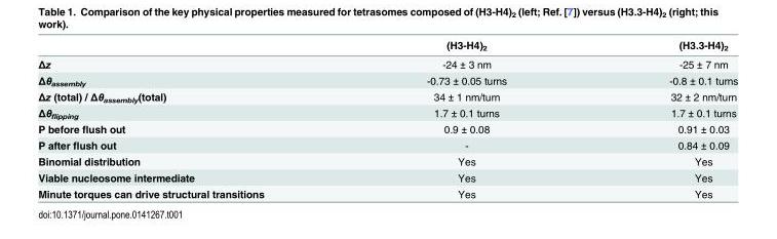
<table><thead><tr><td></td><td>(H3-H4)<sub>2</sub></td><td>(H3.3-H4)<sub>2</sub></td></tr></thead><tbody><tr><td>Δz</td><td>-24 ± 3 nm</td><td>-25 ± 7 nm</td></tr><tr><td>Δθ<sub>assembly</sub></td><td>-0.73 ± 0.05 turns</td><td>-0.8 ± 0.1 turns</td></tr><tr><td>Δz (total) / Δθ<sub>assembly</sub>(total)</td><td>34 ± 1 nm/turn</td><td>32 ± 2 nm/turn</td></tr><tr><td>Δθ<sub>flipping</sub></td><td>1.7 ± 0.1 turns</td><td>1.7 ± 0.1 turns</td></tr><tr><td>P before flush out</td><td>0.9 ± 0.08</td><td>0.91 ± 0.03</td></tr><tr><td>P after flush out</td><td>-</td><td>0.84 ± 0.09</td></tr><tr><td>Binomial distribution</td><td>Yes</td><td>Yes</td></tr><tr><td>Viable nucleosome intermediate</td><td>Yes</td><td>Yes</td></tr><tr><td>Minute torques can drive structural transitions</td><td>Yes</td><td>Yes</td></tr></tbody></table>